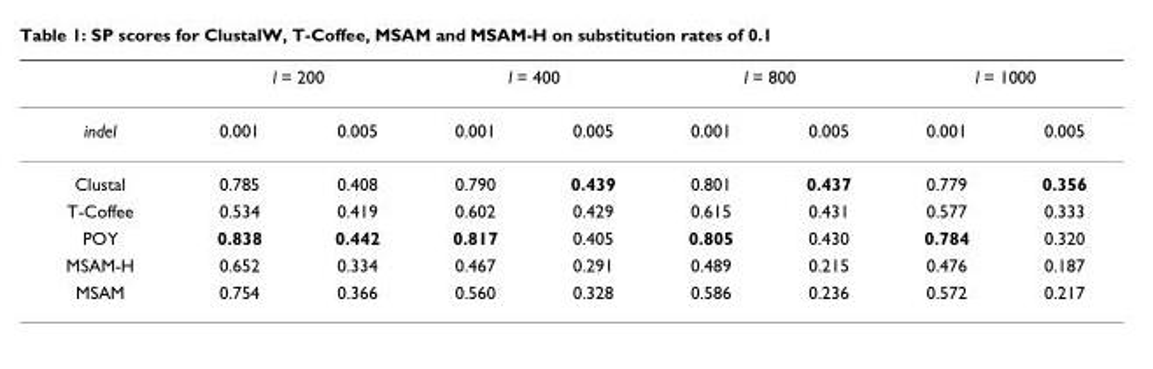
<table><thead><tr><td rowspan="2">indel</td><td colspan="2">l = 200</td><td colspan="2">l = 400</td><td colspan="2">l = 800</td><td colspan="2">l = 1000</td></tr><tr><td>0.001</td><td>0.005</td><td>0.001</td><td>0.005</td><td>0.001</td><td>0.005</td><td>0.001</td><td>0.005</td></tr></thead><tbody><tr><td>Clustal</td><td>0.785</td><td>0.408</td><td>0.790</td><td>0.439</td><td>0.801</td><td>0.437</td><td>0.779</td><td>0.356</td></tr><tr><td>T-Coffee</td><td>0.534</td><td>0.419</td><td>0.602</td><td>0.429</td><td>0.615</td><td>0.431</td><td>0.577</td><td>0.333</td></tr><tr><td>POY</td><td>0.838</td><td>0.442</td><td>0.817</td><td>0.405</td><td>0.805</td><td>0.430</td><td>0.784</td><td>0.320</td></tr><tr><td>MSAM-H</td><td>0.652</td><td>0.334</td><td>0.467</td><td>0.291</td><td>0.489</td><td>0.215</td><td>0.476</td><td>0.187</td></tr><tr><td>MSAM</td><td>0.754</td><td>0.366</td><td>0.560</td><td>0.328</td><td>0.586</td><td>0.236</td><td>0.572</td><td>0.217</td></tr></tbody></table>